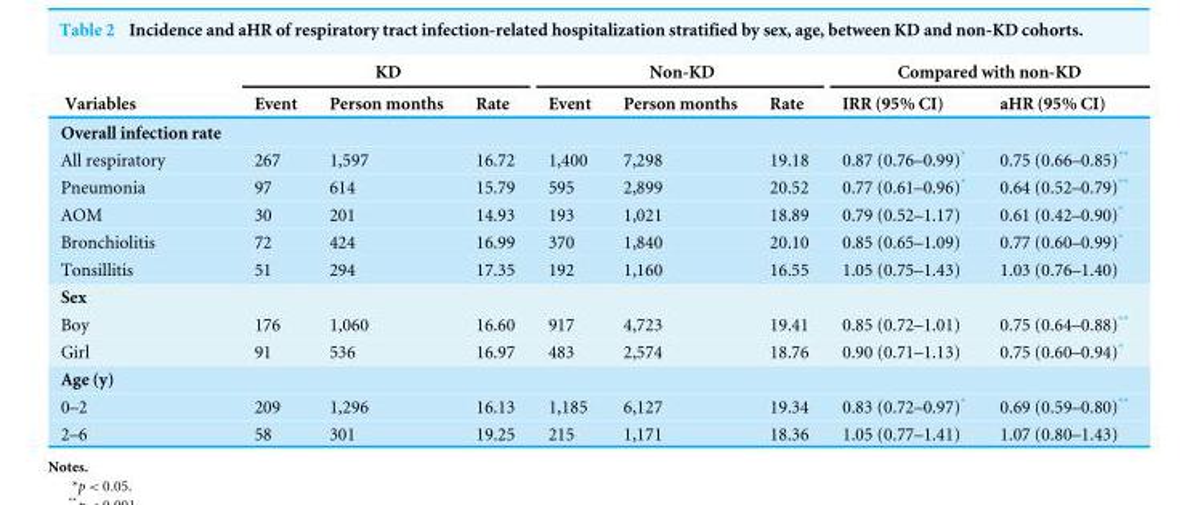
<table><thead><tr><td rowspan="2">Variables</td><td colspan="3">KD</td><td colspan="3">Non-KD</td><td colspan="2">Compared with non-KD</td></tr><tr><td>Event</td><td>Person months</td><td>Rate</td><td>Event</td><td>Person months</td><td>Rate</td><td>IRR (95% CI)</td><td>aHR (95% CI)</td></tr></thead><tbody><tr><td colspan="9">Overall infection rate</td></tr><tr><td>All respiratory</td><td>267</td><td>1,597</td><td>16.72</td><td>1,400</td><td>7,298</td><td>19.18</td><td>0.87 (0.76–0.99)*</td><td>0.75 (0.66–0.85)**</td></tr><tr><td>Pneumonia</td><td>97</td><td>614</td><td>15.79</td><td>595</td><td>2,899</td><td>20.52</td><td>0.77 (0.61–0.96)*</td><td>0.64 (0.52–0.79)**</td></tr><tr><td>AOM</td><td>30</td><td>201</td><td>14.93</td><td>193</td><td>1,021</td><td>18.89</td><td>0.79 (0.52–1.17)</td><td>0.61 (0.42–0.90)*</td></tr><tr><td>Bronchiolitis</td><td>72</td><td>424</td><td>16.99</td><td>370</td><td>1,840</td><td>20.10</td><td>0.85 (0.65–1.09)</td><td>0.77 (0.60–0.99)*</td></tr><tr><td>Tonsillitis</td><td>51</td><td>294</td><td>17.35</td><td>192</td><td>1,160</td><td>16.55</td><td>1.05 (0.75–1.43)</td><td>1.03 (0.76–1.40)</td></tr><tr><td colspan="9">Sex</td></tr><tr><td>Boy</td><td>176</td><td>1,060</td><td>16.60</td><td>917</td><td>4,723</td><td>19.41</td><td>0.85 (0.72–1.01)</td><td>0.75 (0.64–0.88)**</td></tr><tr><td>Girl</td><td>91</td><td>536</td><td>16.97</td><td>483</td><td>2,574</td><td>18.76</td><td>0.90 (0.71–1.13)</td><td>0.75 (0.60–0.94)*</td></tr><tr><td colspan="9">Age (y)</td></tr><tr><td>0–2</td><td>209</td><td>1,296</td><td>16.13</td><td>1,185</td><td>6,127</td><td>19.34</td><td>0.83 (0.72–0.97)*</td><td>0.69 (0.59–0.80)**</td></tr><tr><td>2–6</td><td>58</td><td>301</td><td>19.25</td><td>215</td><td>1,171</td><td>18.36</td><td>1.05 (0.77–1.41)</td><td>1.07 (0.80–1.43)</td></tr></tbody></table>